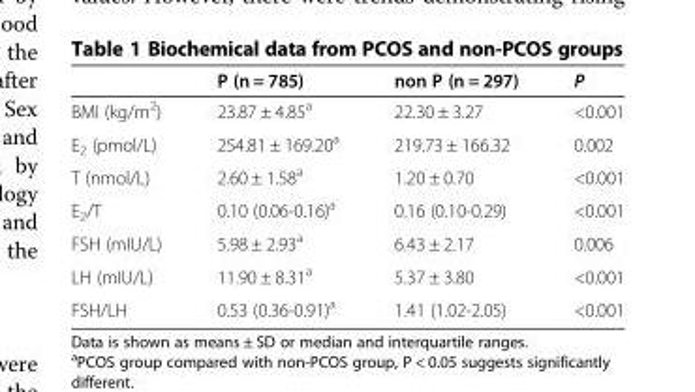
<table><thead><tr><td></td><td>P (n = 785)</td><td>non P (n = 297)</td><td>P</td></tr></thead><tbody><tr><td>BMI (kg/m<sup>2</sup>)</td><td>23.87 ± 4.85<sup>a</sup></td><td>22.30 ± 3.27</td><td>&lt;0.001</td></tr><tr><td>E<sub>2</sub> (pmol/L)</td><td>254.81 ± 169.20<sup>a</sup></td><td>219.73 ± 166.32</td><td>0.002</td></tr><tr><td>T (nmol/L)</td><td>2.60 ± 1.58<sup>a</sup></td><td>1.20 ± 0.70</td><td>&lt;0.001</td></tr><tr><td>E<sub>2</sub>/T</td><td>0.10 (0.06-0.16)<sup>a</sup></td><td>0.16 (0.10-0.29)</td><td>&lt;0.001</td></tr><tr><td>FSH (mIU/L)</td><td>5.98 ± 2.93<sup>a</sup></td><td>6.43 ± 2.17</td><td>0.006</td></tr><tr><td>LH (mIU/L)</td><td>11.90 ± 8.31<sup>a</sup></td><td>5.37 ± 3.80</td><td>&lt;0.001</td></tr><tr><td>FSH/LH</td><td>0.53 (0.36-0.91)<sup>a</sup></td><td>1.41 (1.02-2.05)</td><td>&lt;0.001</td></tr></tbody></table>